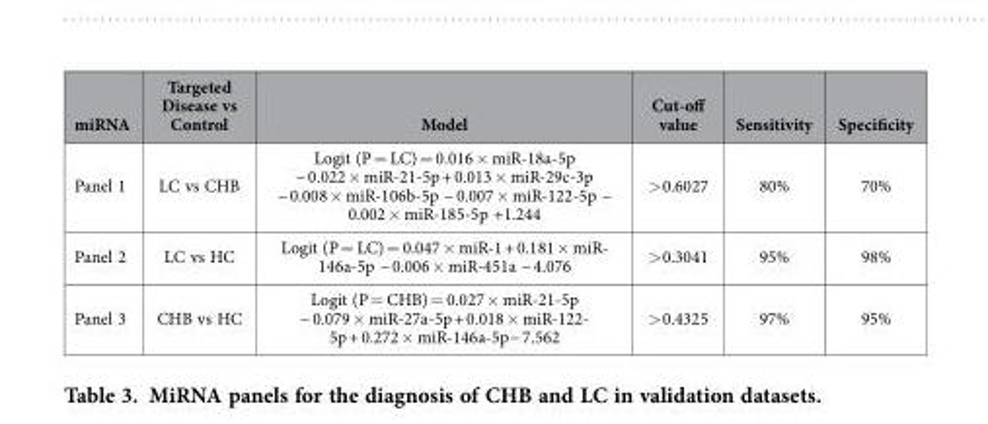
<table><thead><tr><td>miRNA</td><td>Targeted Disease vs Control</td><td>Model</td><td>Cut-off value</td><td>Sensitivity</td><td>Specificity</td></tr></thead><tbody><tr><td>Panel 1</td><td>LC vs CHB</td><td>Logit (P = LC) = 0.016 × miR-18a-5p − 0.022 × miR-21-5p + 0.013 × miR-29c-3p − 0.008 × miR-106b-5p − 0.007 × miR-122-5p − 0.002 × miR-185-5p +1.244</td><td>&gt; 0.6027</td><td>80%</td><td>70%</td></tr><tr><td>Panel 2</td><td>LC vs HC</td><td>Logit (P = LC) = 0.047 × miR-1 + 0.181 × miR- 146a-5p − 0.006 × miR-451a − 4.076</td><td>&gt; 0.3041</td><td>95%</td><td>98%</td></tr><tr><td>Panel 3</td><td>CHB vs HC</td><td>Logit (P = CHB) = 0.027 × miR-21-5p − 0.079 × miR-27a-5p + 0.018 × miR-122- 5p + 0.272 × miR-146a-5p − 7.562</td><td>&gt; 0.4325</td><td>97%</td><td>95%</td></tr></tbody></table>